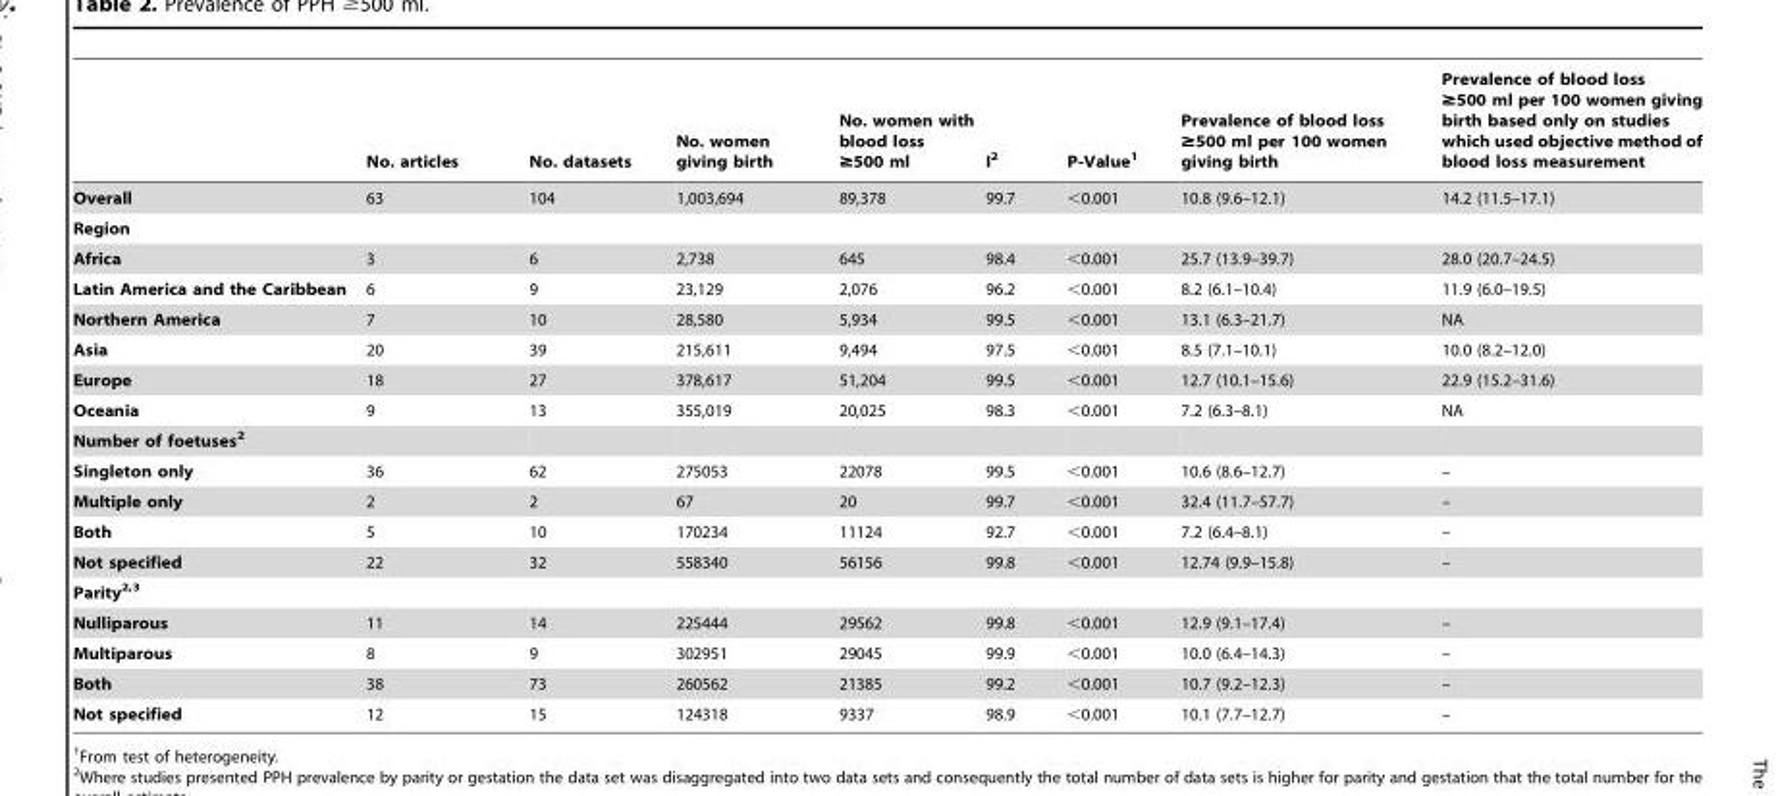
<table><thead><tr><td></td><td>No. articles</td><td>No. datasets</td><td>No. women giving birth</td><td>No. women with blood loss ≥500 ml</td><td>I<sup>2</sup></td><td>P-Value<sup>1</sup></td><td>Prevalence of blood loss ≥500 ml per 100 women giving birth</td><td>Prevalence of blood loss ≥500 ml per 100 women giving birth based only on studies which used objective method of blood loss measurement</td></tr></thead><tbody><tr><td>Overall</td><td>63</td><td>104</td><td>1,003,694</td><td>89,378</td><td>99.7</td><td>&lt;0.001</td><td>10.8 (9.6–12.1)</td><td>14.2 (11.5–17.1)</td></tr><tr><td colspan="9">Region</td></tr><tr><td>Africa</td><td>3</td><td>6</td><td>2,738</td><td>645</td><td>98.4</td><td>&lt;0.001</td><td>25.7 (13.9–39.7)</td><td>28.0 (20.7–24.5)</td></tr><tr><td>Latin America and the Caribbean</td><td>6</td><td>9</td><td>23,129</td><td>2,076</td><td>96.2</td><td>&lt;0.001</td><td>8.2 (6.1–10.4)</td><td>11.9 (6.0–19.5)</td></tr><tr><td>Northern America</td><td>7</td><td>10</td><td>28,580</td><td>5,934</td><td>99.5</td><td>&lt;0.001</td><td>13.1 (6.3–21.7)</td><td>NA</td></tr><tr><td>Asia</td><td>20</td><td>39</td><td>215,611</td><td>9,494</td><td>97.5</td><td>&lt;0.001</td><td>8.5 (7.1–10.1)</td><td>10.0 (8.2–12.0)</td></tr><tr><td>Europe</td><td>18</td><td>27</td><td>378,617</td><td>51,204</td><td>99.5</td><td>&lt;0.001</td><td>12.7 (10.1–15.6)</td><td>22.9 (15.2–31.6)</td></tr><tr><td>Oceania</td><td>9</td><td>13</td><td>355,019</td><td>20,025</td><td>98.3</td><td>&lt;0.001</td><td>7.2 (6.3–8.1)</td><td>NA</td></tr><tr><td colspan="9">Number of foetuses2</td></tr><tr><td>Singleton only</td><td>36</td><td>62</td><td>275053</td><td>22078</td><td>99.5</td><td>&lt;0.001</td><td>10.6 (8.6–12.7)</td><td>–</td></tr><tr><td>Multiple only</td><td>2</td><td>2</td><td>67</td><td>20</td><td>99.7</td><td>&lt;0.001</td><td>32.4 (11.7–57.7)</td><td>–</td></tr><tr><td>Both</td><td>5</td><td>10</td><td>170234</td><td>11124</td><td>92.7</td><td>&lt;0.001</td><td>7.2 (6.4–8.1)</td><td>–</td></tr><tr><td>Not specified</td><td>22</td><td>32</td><td>558340</td><td>56156</td><td>99.8</td><td>&lt;0.001</td><td>12.74 (9.9–15.8)</td><td>–</td></tr><tr><td colspan="9">Parity2,3</td></tr><tr><td>Nulliparous</td><td>11</td><td>14</td><td>225444</td><td>29562</td><td>99.8</td><td>&lt;0.001</td><td>12.9 (9.1–17.4)</td><td>–</td></tr><tr><td>Multiparous</td><td>8</td><td>9</td><td>302951</td><td>29045</td><td>99.9</td><td>&lt;0.001</td><td>10.0 (6.4–14.3)</td><td>–</td></tr><tr><td>Both</td><td>38</td><td>73</td><td>260562</td><td>21385</td><td>99.2</td><td>&lt;0.001</td><td>10.7 (9.2–12.3)</td><td>–</td></tr><tr><td>Not specified</td><td>12</td><td>15</td><td>124318</td><td>9337</td><td>98.9</td><td>&lt;0.001</td><td>10.1 (7.7–12.7)</td><td>–</td></tr></tbody></table>